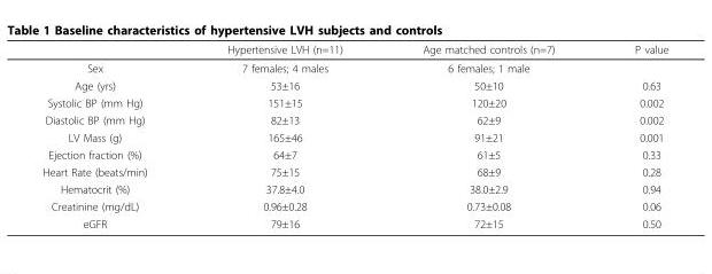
<table><thead><tr><td></td><td>Hypertensive LVH (n=11)</td><td>Age matched controls (n=7)</td><td>P value</td></tr></thead><tbody><tr><td>Sex</td><td>7 females; 4 males</td><td>6 females; 1 male</td><td></td></tr><tr><td>Age (yrs)</td><td>53±16</td><td>50±10</td><td>0.63</td></tr><tr><td>Systolic BP (mm Hg)</td><td>151±15</td><td>120±20</td><td>0.002</td></tr><tr><td>Diastolic BP (mm Hg)</td><td>82±13</td><td>62±9</td><td>0.002</td></tr><tr><td>LV Mass (g)</td><td>165±46</td><td>91±21</td><td>0.001</td></tr><tr><td>Ejection fraction (%)</td><td>64±7</td><td>61±5</td><td>0.33</td></tr><tr><td>Heart Rate (beats/min)</td><td>75±15</td><td>68±9</td><td>0.28</td></tr><tr><td>Hematocrit (%)</td><td>37.8±4.0</td><td>38.0±2.9</td><td>0.94</td></tr><tr><td>Creatinine (mg/dL)</td><td>0.96±0.28</td><td>0.73±0.08</td><td>0.06</td></tr><tr><td>eGFR</td><td>79±16</td><td>72±15</td><td>0.50</td></tr></tbody></table>